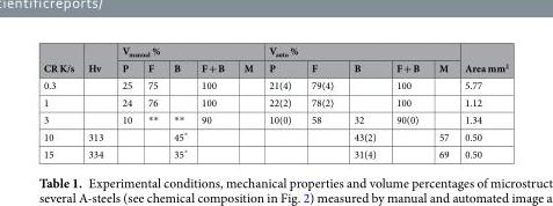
<table><thead><tr><td rowspan="2">CR K/s</td><td rowspan="2">Hv</td><td colspan="5">V<sub>manual</sub> %</td><td colspan="5">V<sub>auto</sub> %</td><td rowspan="2">Area mm<sup>2</sup></td></tr><tr><td>P</td><td>F</td><td>B</td><td>F + B</td><td>M</td><td>P</td><td>F</td><td>B</td><td>F + B</td><td>M</td></tr></thead><tbody><tr><td>0.3</td><td></td><td>25</td><td>75</td><td></td><td>100</td><td></td><td>21(4)</td><td>79(4)</td><td></td><td>100</td><td></td><td>5.77</td></tr><tr><td>1</td><td></td><td>24</td><td>76</td><td></td><td>100</td><td></td><td>22(2)</td><td>78(2)</td><td></td><td>100</td><td></td><td>1.12</td></tr><tr><td>3</td><td></td><td>10</td><td>**</td><td>**</td><td>90</td><td></td><td>10(0)</td><td>58</td><td>32</td><td>90(0)</td><td></td><td>1.34</td></tr><tr><td>10</td><td>313</td><td></td><td></td><td>45*</td><td></td><td></td><td></td><td></td><td>43(2)</td><td></td><td>57</td><td>0.50</td></tr><tr><td>15</td><td>334</td><td></td><td></td><td>35*</td><td></td><td></td><td></td><td></td><td>31(4)</td><td></td><td>69</td><td>0.50</td></tr></tbody></table>